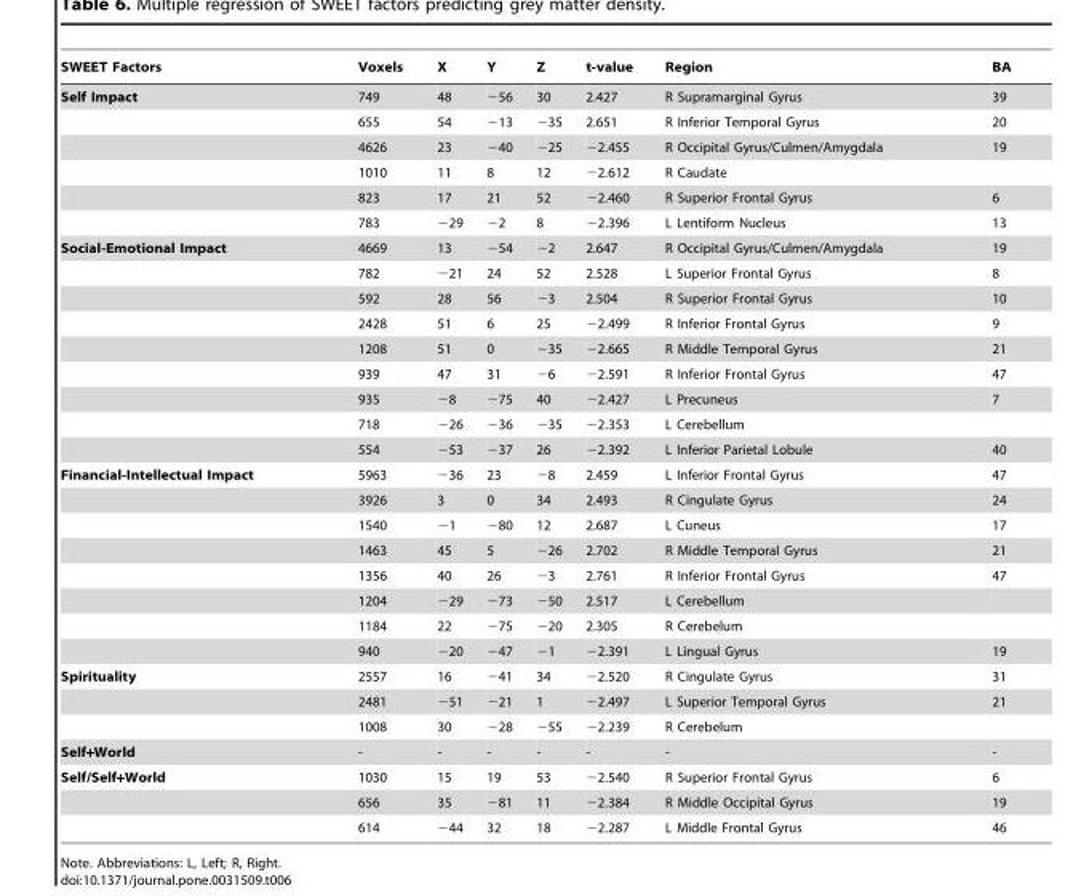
<table><thead><tr><td>SWEET Factors</td><td>Voxels</td><td>X</td><td>Y</td><td>Z</td><td>t-value</td><td>Region</td><td>BA</td></tr></thead><tbody><tr><td rowspan="6">Self Impact</td><td>749</td><td>48</td><td>−56</td><td>30</td><td>2.427</td><td>R Supramarginal Gyrus</td><td>39</td></tr><tr><td>655</td><td>54</td><td>−13</td><td>−35</td><td>2.651</td><td>R Inferior Temporal Gyrus</td><td>20</td></tr><tr><td>4626</td><td>23</td><td>−40</td><td>−25</td><td>−2.455</td><td>R Occipital Gyrus/Culmen/Amygdala</td><td>19</td></tr><tr><td>1010</td><td>11</td><td>8</td><td>12</td><td>−2.612</td><td>R Caudate</td><td></td></tr><tr><td>823</td><td>17</td><td>21</td><td>52</td><td>−2.460</td><td>R Superior Frontal Gyrus</td><td>6</td></tr><tr><td>783</td><td>−29</td><td>−2</td><td>8</td><td>−2.396</td><td>L Lentiform Nucleus</td><td>13</td></tr><tr><td rowspan="9">Social-Emotional Impact</td><td>4669</td><td>13</td><td>−54</td><td>−2</td><td>2.647</td><td>R Occipital Gyrus/Culmen/Amygdala</td><td>19</td></tr><tr><td>782</td><td>−21</td><td>24</td><td>52</td><td>2.528</td><td>L Superior Frontal Gyrus</td><td>8</td></tr><tr><td>592</td><td>28</td><td>56</td><td>−3</td><td>2.504</td><td>R Superior Frontal Gyrus</td><td>10</td></tr><tr><td>2428</td><td>51</td><td>6</td><td>25</td><td>−2.499</td><td>R Inferior Frontal Gyrus</td><td>9</td></tr><tr><td>1208</td><td>51</td><td>0</td><td>−35</td><td>−2.665</td><td>R Middle Temporal Gyrus</td><td>21</td></tr><tr><td>939</td><td>47</td><td>31</td><td>−6</td><td>−2.591</td><td>R Inferior Frontal Gyrus</td><td>47</td></tr><tr><td>935</td><td>−8</td><td>−75</td><td>40</td><td>−2.427</td><td>L Precuneus</td><td>7</td></tr><tr><td>718</td><td>−26</td><td>−36</td><td>−35</td><td>−2.353</td><td>L Cerebellum</td><td></td></tr><tr><td>554</td><td>−53</td><td>−37</td><td>26</td><td>−2.392</td><td>L Inferior Parietal Lobule</td><td>40</td></tr><tr><td rowspan="8">Financial-Intellectual Impact</td><td>5963</td><td>−36</td><td>23</td><td>−8</td><td>2.459</td><td>L Inferior Frontal Gyrus</td><td>47</td></tr><tr><td>3926</td><td>3</td><td>0</td><td>34</td><td>2.493</td><td>R Cingulate Gyrus</td><td>24</td></tr><tr><td>1540</td><td>−1</td><td>−80</td><td>12</td><td>2.687</td><td>L Cuneus</td><td>17</td></tr><tr><td>1463</td><td>45</td><td>5</td><td>−26</td><td>2.702</td><td>R Middle Temporal Gyrus</td><td>21</td></tr><tr><td>1356</td><td>40</td><td>26</td><td>−3</td><td>2.761</td><td>R Inferior Frontal Gyrus</td><td>47</td></tr><tr><td>1204</td><td>−29</td><td>−73</td><td>−50</td><td>2.517</td><td>L Cerebellum</td><td></td></tr><tr><td>1184</td><td>22</td><td>−75</td><td>−20</td><td>2.305</td><td>R Cerebelum</td><td></td></tr><tr><td>940</td><td>−20</td><td>−47</td><td>−1</td><td>−2.391</td><td>L Lingual Gyrus</td><td>19</td></tr><tr><td rowspan="3">Spirituality</td><td>2557</td><td>16</td><td>−41</td><td>34</td><td>−2.520</td><td>R Cingulate Gyrus</td><td>31</td></tr><tr><td>2481</td><td>−51</td><td>−21</td><td>1</td><td>−2.497</td><td>L Superior Temporal Gyrus</td><td>21</td></tr><tr><td>1008</td><td>30</td><td>−28</td><td>−55</td><td>−2.239</td><td>R Cerebelum</td><td></td></tr><tr><td>Self+World</td><td>-</td><td>-</td><td>-</td><td>-</td><td>-</td><td>-</td><td>-</td></tr><tr><td rowspan="3">Self/Self+World</td><td>1030</td><td>15</td><td>19</td><td>53</td><td>−2.540</td><td>R Superior Frontal Gyrus</td><td>6</td></tr><tr><td>656</td><td>35</td><td>−81</td><td>11</td><td>−2.384</td><td>R Middle Occipital Gyrus</td><td>19</td></tr><tr><td>614</td><td>−44</td><td>32</td><td>18</td><td>−2.287</td><td>L Middle Frontal Gyrus</td><td>46</td></tr></tbody></table>